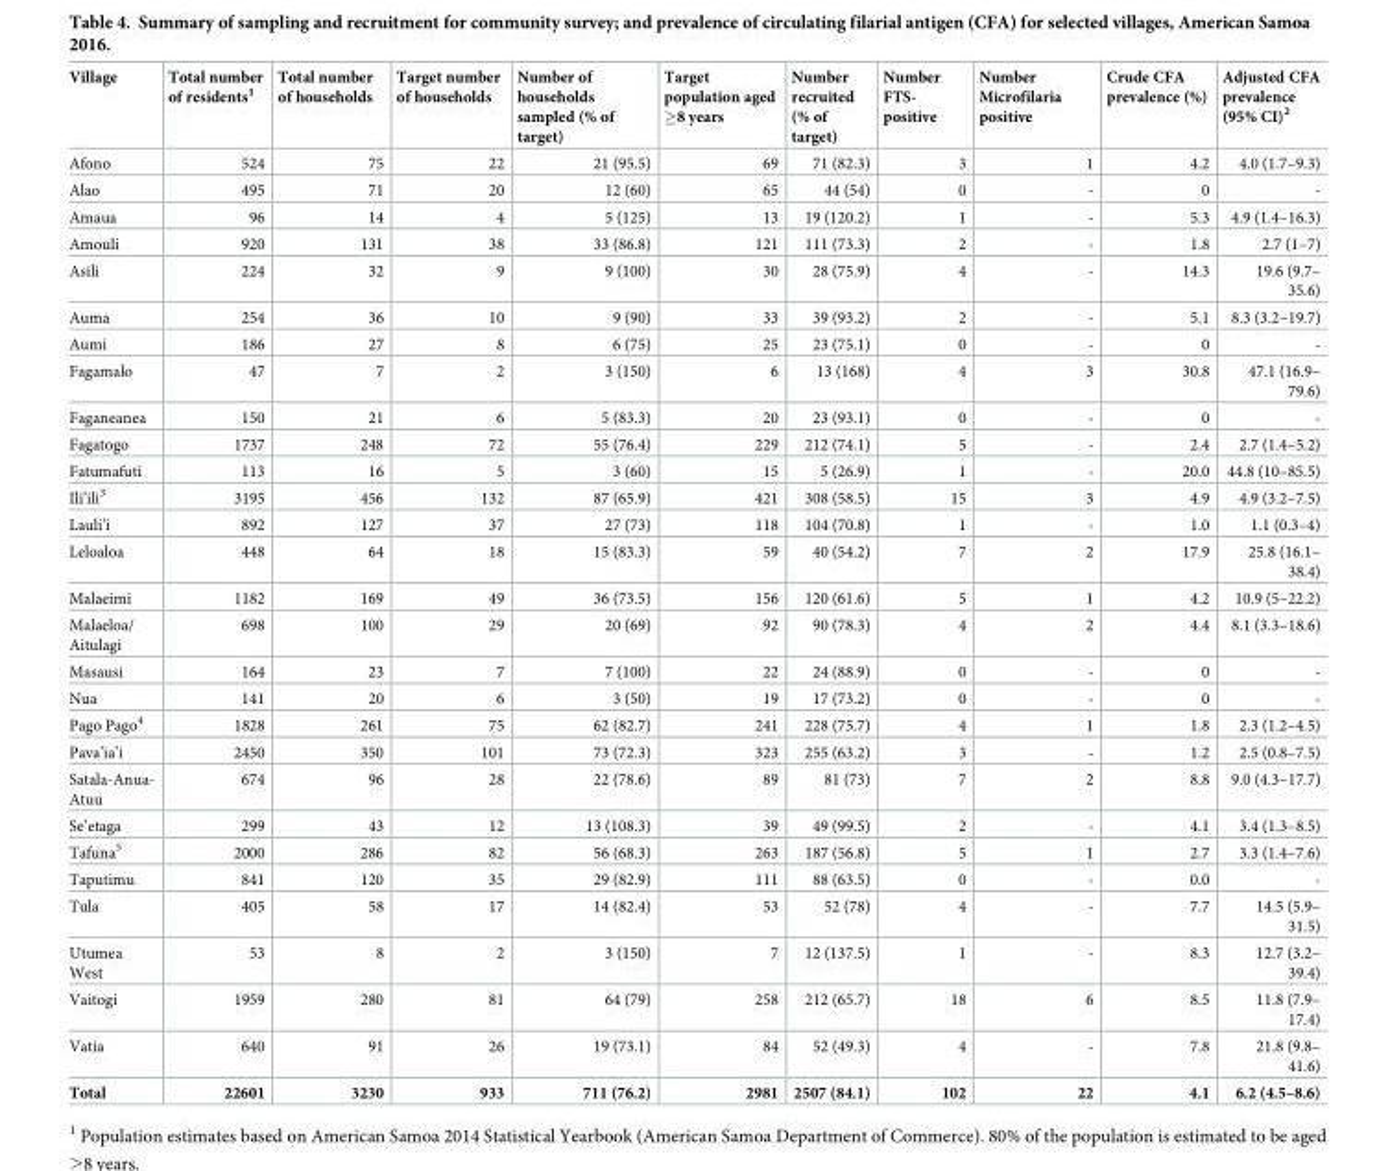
<table><thead><tr><td>Village</td><td>Total number of residents<sup>1</sup></td><td>Total number of households</td><td>Target number of households</td><td>Number of households sampled (% of target)</td><td>Target population aged ≥8 years</td><td>Number recruited (% of target)</td><td>Number FTS- positive</td><td>Number Microfilaria positive</td><td>Crude CFA prevalence (%)</td><td>Adjusted CFA prevalence (95% CI)<sup>2</sup></td></tr></thead><tbody><tr><td>Afono</td><td>524</td><td>75</td><td>22</td><td>21 (95.5)</td><td>69</td><td>71 (82.3)</td><td>3</td><td>1</td><td>4.2</td><td>4.0 (1.7–9.3)</td></tr><tr><td>Alao</td><td>495</td><td>71</td><td>20</td><td>12 (60)</td><td>65</td><td>44 (54)</td><td>0</td><td>-</td><td>0</td><td>-</td></tr><tr><td>Amaua</td><td>96</td><td>14</td><td>4</td><td>5 (125)</td><td>13</td><td>19 (120.2)</td><td>1</td><td>-</td><td>5.3</td><td>4.9 (1.4–16.3)</td></tr><tr><td>Amouli</td><td>920</td><td>131</td><td>38</td><td>33 (86.8)</td><td>121</td><td>111 (73.3)</td><td>2</td><td>-</td><td>1.8</td><td>2.7 (1–7)</td></tr><tr><td>Asili</td><td>224</td><td>32</td><td>9</td><td>9 (100)</td><td>30</td><td>28 (75.9)</td><td>4</td><td>-</td><td>14.3</td><td>19.6 (9.7– 35.6)</td></tr><tr><td>Auma</td><td>254</td><td>36</td><td>10</td><td>9 (90)</td><td>33</td><td>39 (93.2)</td><td>2</td><td>-</td><td>5.1</td><td>8.3 (3.2–19.7)</td></tr><tr><td>Aumi</td><td>186</td><td>27</td><td>8</td><td>6 (75)</td><td>25</td><td>23 (75.1)</td><td>0</td><td>-</td><td>0</td><td>-</td></tr><tr><td>Fagamalo</td><td>47</td><td>7</td><td>2</td><td>3 (150)</td><td>6</td><td>13 (168)</td><td>4</td><td>3</td><td>30.8</td><td>47.1 (16.9– 79.6)</td></tr><tr><td>Faganeanea</td><td>150</td><td>21</td><td>6</td><td>5 (83.3)</td><td>20</td><td>23 (93.1)</td><td>0</td><td>-</td><td>0</td><td>-</td></tr><tr><td>Fagatogo</td><td>1737</td><td>248</td><td>72</td><td>55 (76.4)</td><td>229</td><td>212 (74.1)</td><td>5</td><td>-</td><td>2.4</td><td>2.7 (1.4–5.2)</td></tr><tr><td>Fatumafuti</td><td>113</td><td>16</td><td>5</td><td>3 (60)</td><td>15</td><td>5 (26.9)</td><td>1</td><td>-</td><td>20.0</td><td>44.8 (10–85.5)</td></tr><tr><td>Ili’ili<sup>3</sup></td><td>3195</td><td>456</td><td>132</td><td>87 (65.9)</td><td>421</td><td>308 (58.5)</td><td>15</td><td>3</td><td>4.9</td><td>4.9 (3.2–7.5)</td></tr><tr><td>Lauli’i</td><td>892</td><td>127</td><td>37</td><td>27 (73)</td><td>118</td><td>104 (70.8)</td><td>1</td><td>-</td><td>1.0</td><td>1.1 (0.3–4)</td></tr><tr><td>Leloaloa</td><td>448</td><td>64</td><td>18</td><td>15 (83.3)</td><td>59</td><td>40 (54.2)</td><td>7</td><td>2</td><td>17.9</td><td>25.8 (16.1– 38.4)</td></tr><tr><td>Malaeimi</td><td>1182</td><td>169</td><td>49</td><td>36 (73.5)</td><td>156</td><td>120 (61.6)</td><td>5</td><td>1</td><td>4.2</td><td>10.9 (5–22.2)</td></tr><tr><td>Malaeloa/ Aitulagi</td><td>698</td><td>100</td><td>29</td><td>20 (69)</td><td>92</td><td>90 (78.3)</td><td>4</td><td>2</td><td>4.4</td><td>8.1 (3.3–18.6)</td></tr><tr><td>Masausi</td><td>164</td><td>23</td><td>7</td><td>7 (100)</td><td>22</td><td>24 (88.9)</td><td>0</td><td>-</td><td>0</td><td>-</td></tr><tr><td>Nua</td><td>141</td><td>20</td><td>6</td><td>3 (50)</td><td>19</td><td>17 (73.2)</td><td>0</td><td>-</td><td>0</td><td>-</td></tr><tr><td>Pago Pago<sup>4</sup></td><td>1828</td><td>261</td><td>75</td><td>62 (82.7)</td><td>241</td><td>228 (75.7)</td><td>4</td><td>1</td><td>1.8</td><td>2.3 (1.2–4.5)</td></tr><tr><td>Pava’ia’i</td><td>2450</td><td>350</td><td>101</td><td>73 (72.3)</td><td>323</td><td>255 (63.2)</td><td>3</td><td>-</td><td>1.2</td><td>2.5 (0.8–7.5)</td></tr><tr><td>Satala-Anua- Atuu</td><td>674</td><td>96</td><td>28</td><td>22 (78.6)</td><td>89</td><td>81 (73)</td><td>7</td><td>2</td><td>8.8</td><td>9.0 (4.3–17.7)</td></tr><tr><td>Se’etaga</td><td>299</td><td>43</td><td>12</td><td>13 (108.3)</td><td>39</td><td>49 (99.5)</td><td>2</td><td>-</td><td>4.1</td><td>3.4 (1.3–8.5)</td></tr><tr><td>Tafuna<sup>5</sup></td><td>2000</td><td>286</td><td>82</td><td>56 (68.3)</td><td>263</td><td>187 (56.8)</td><td>5</td><td>1</td><td>2.7</td><td>3.3 (1.4–7.6)</td></tr><tr><td>Taputimu</td><td>841</td><td>120</td><td>35</td><td>29 (82.9)</td><td>111</td><td>88 (63.5)</td><td>0</td><td>-</td><td>0.0</td><td>-</td></tr><tr><td>Tula</td><td>405</td><td>58</td><td>17</td><td>14 (82.4)</td><td>53</td><td>52 (78)</td><td>4</td><td>-</td><td>7.7</td><td>14.5 (5.9– 31.5)</td></tr><tr><td>Utumea West</td><td>53</td><td>8</td><td>2</td><td>3 (150)</td><td>7</td><td>12 (137.5)</td><td>1</td><td>-</td><td>8.3</td><td>12.7 (3.2– 39.4)</td></tr><tr><td>Vaitogi</td><td>1959</td><td>280</td><td>81</td><td>64 (79)</td><td>258</td><td>212 (65.7)</td><td>18</td><td>6</td><td>8.5</td><td>11.8 (7.9– 17.4)</td></tr><tr><td>Vatia</td><td>640</td><td>91</td><td>26</td><td>19 (73.1)</td><td>84</td><td>52 (49.3)</td><td>4</td><td>-</td><td>7.8</td><td>21.8 (9.8– 41.6)</td></tr><tr><td>Total</td><td>22601</td><td>3230</td><td>933</td><td>711 (76.2)</td><td>2981</td><td>2507 (84.1)</td><td>102</td><td>22</td><td>4.1</td><td>6.2 (4.5–8.6)</td></tr></tbody></table>